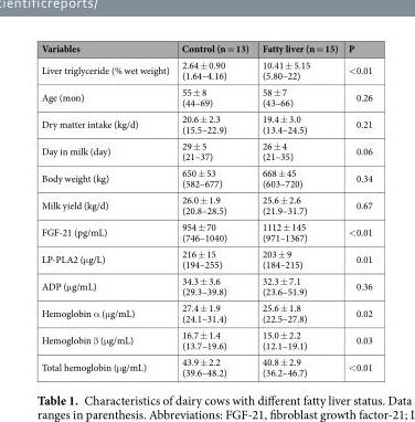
<table><thead><tr><td>Variables</td><td>Control (n = 13)</td><td>Fatty liver (n = 15)</td><td>P</td></tr></thead><tbody><tr><td>Liver triglyceride (% wet weight)</td><td>2.64 ± 0.90 (1.64–4.16)</td><td>10.41 ± 5.15 (5.80–22)</td><td>&lt;0.01</td></tr><tr><td>Age (mon)</td><td>55 ± 8 (44–69)</td><td>58 ± 7 (43–66)</td><td>0.26</td></tr><tr><td>Dry matter intake (kg/d)</td><td>20.6 ± 2.3 (15.5–22.9)</td><td>19.4 ± 3.0 (13.4–24.5)</td><td>0.21</td></tr><tr><td>Day in milk (day)</td><td>29 ± 5 (21–37)</td><td>26 ± 4 (21–35)</td><td>0.06</td></tr><tr><td>Body weight (kg)</td><td>650 ± 53 (582–677)</td><td>668 ± 45 (603–720)</td><td>0.34</td></tr><tr><td>Milk yield (kg/d)</td><td>26.0 ± 1.9 (20.8–28.5)</td><td>25.6 ± 2.6 (21.9–31.7)</td><td>0.67</td></tr><tr><td>FGF-21 (pg/mL)</td><td>954 ± 70 (746–1040)</td><td>1112 ± 145 (971–1367)</td><td>&lt;0.01</td></tr><tr><td>LP-PLA2 (μg/L)</td><td>216 ± 15 (194–255)</td><td>203 ± 9 (184–215)</td><td>0.01</td></tr><tr><td>ADP (μg/mL)</td><td>34.3 ± 3.6 (29.3–39.8)</td><td>32.3 ± 7.1 (23.6–51.9)</td><td>0.36</td></tr><tr><td>Hemoglobin α (μg/mL)</td><td>27.4 ± 1.9 (24.1–31.4)</td><td>25.6 ± 1.8 (22.5–27.8)</td><td>0.02</td></tr><tr><td>Hemoglobin β (μg/mL)</td><td>16.7 ± 1.4 (13.7–19.6)</td><td>15.0 ± 2.2 (12.1–19.1)</td><td>0.03</td></tr><tr><td>Total hemoglobin (μg/mL)</td><td>43.9 ± 2.2 (39.6–48.2)</td><td>40.8 ± 2.9 (36.2–46.7)</td><td>&lt;0.01</td></tr></tbody></table>